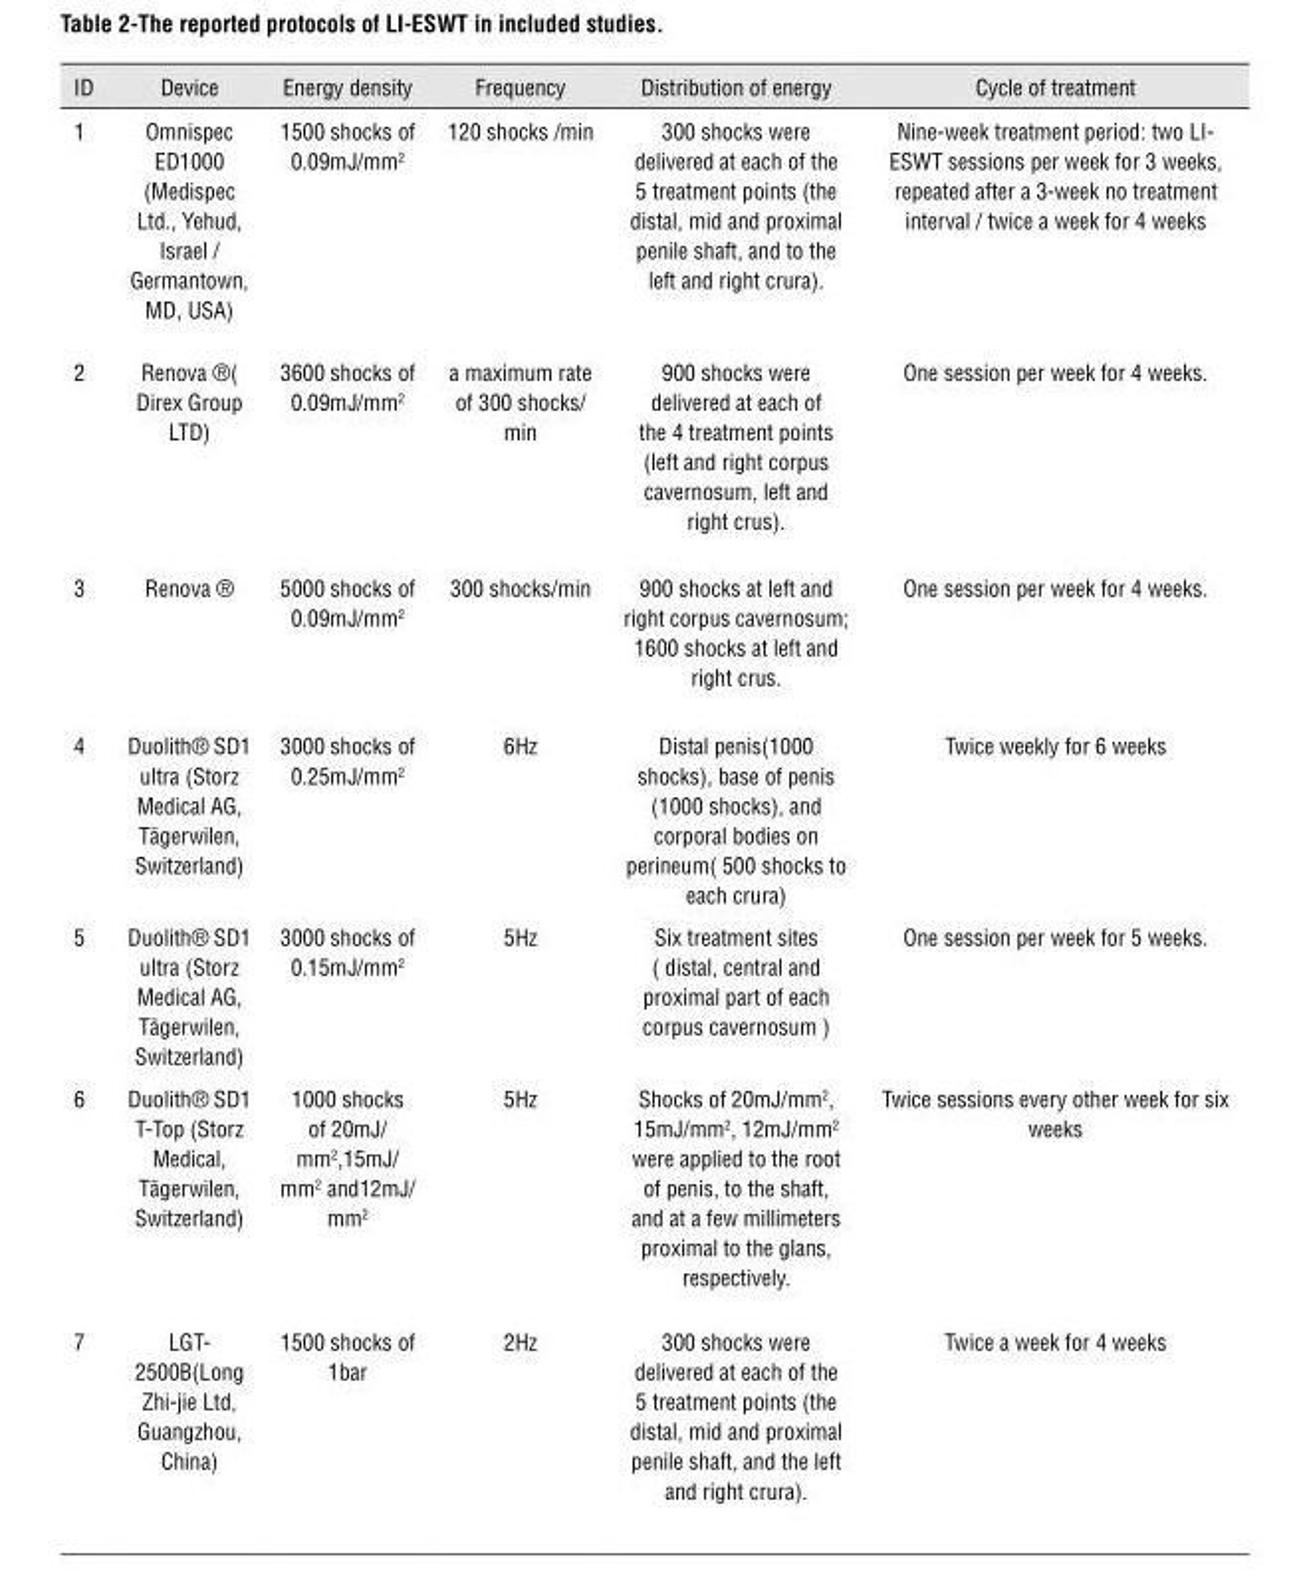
<table><thead><tr><td>ID</td><td>Device</td><td>Energy density</td><td>Frequency</td><td>Distribution of energy</td><td>Cycle of treatment</td></tr></thead><tbody><tr><td>1</td><td>Omnispec ED1000 (Medispec Ltd., Yehud, Israel / Germantown, MD, USA)</td><td>1500 shocks of 0.09mJ/mm<sup>2</sup></td><td>120 shocks /min</td><td>300 shocks were delivered at each of the 5 treatment points (the distal, mid and proximal penile shaft, and to the left and right crura).</td><td>Nine-week treatment period: two LI- ESWT sessions per week for 3 weeks, repeated after a 3-week no treatment interval / twice a week for 4 weeks</td></tr><tr><td>2</td><td>Renova ®( Direx Group LTD)</td><td>3600 shocks of 0.09mJ/mm<sup>2</sup></td><td>a maximum rate of 300 shocks/ min</td><td>900 shocks were delivered at each of the 4 treatment points (left and right corpus cavernosum, left and right crus).</td><td>One session per week for 4 weeks.</td></tr><tr><td>3</td><td>Renova ®</td><td>5000 shocks of 0.09mJ/mm<sup>2</sup></td><td>300 shocks/min</td><td>900 shocks at left and right corpus cavernosum; 1600 shocks at left and right crus.</td><td>One session per week for 4 weeks.</td></tr><tr><td>4</td><td>Duolith® SD1 ultra (Storz Medical AG, Tägerwilen, Switzerland)</td><td>3000 shocks of 0.25mJ/mm<sup>2</sup></td><td>6Hz</td><td>Distal penis(1000 shocks), base of penis (1000 shocks), and corporal bodies on perineum( 500 shocks to each crura)</td><td>Twice weekly for 6 weeks</td></tr><tr><td>5</td><td>Duolith® SD1 ultra (Storz Medical AG, Tägerwilen, Switzerland)</td><td>3000 shocks of 0.15mJ/mm<sup>2</sup></td><td>5Hz</td><td>Six treatment sites ( distal, central and proximal part of each corpus cavernosum )</td><td>One session per week for 5 weeks.</td></tr><tr><td>6</td><td>Duolith® SD1 T-Top (Storz Medical, Tägerwilen, Switzerland)</td><td>1000 shocks of 20mJ/ mm<sup>2</sup>,15mJ/ mm<sup>2</sup> and12mJ/ mm<sup>2</sup></td><td>5Hz</td><td>Shocks of 20mJ/mm<sup>2</sup>, 15mJ/mm<sup>2</sup>, 12mJ/mm<sup>2</sup> were applied to the root of penis, to the shaft, and at a few millimeters proximal to the glans, respectively.</td><td>Twice sessions every other week for six weeks</td></tr><tr><td>7</td><td>LGT- 2500B(Long Zhi-jie Ltd, Guangzhou, China)</td><td>1500 shocks of 1bar</td><td>2Hz</td><td>300 shocks were delivered at each of the 5 treatment points (the distal, mid and proximal penile shaft, and the left and right crura).</td><td>Twice a week for 4 weeks</td></tr></tbody></table>